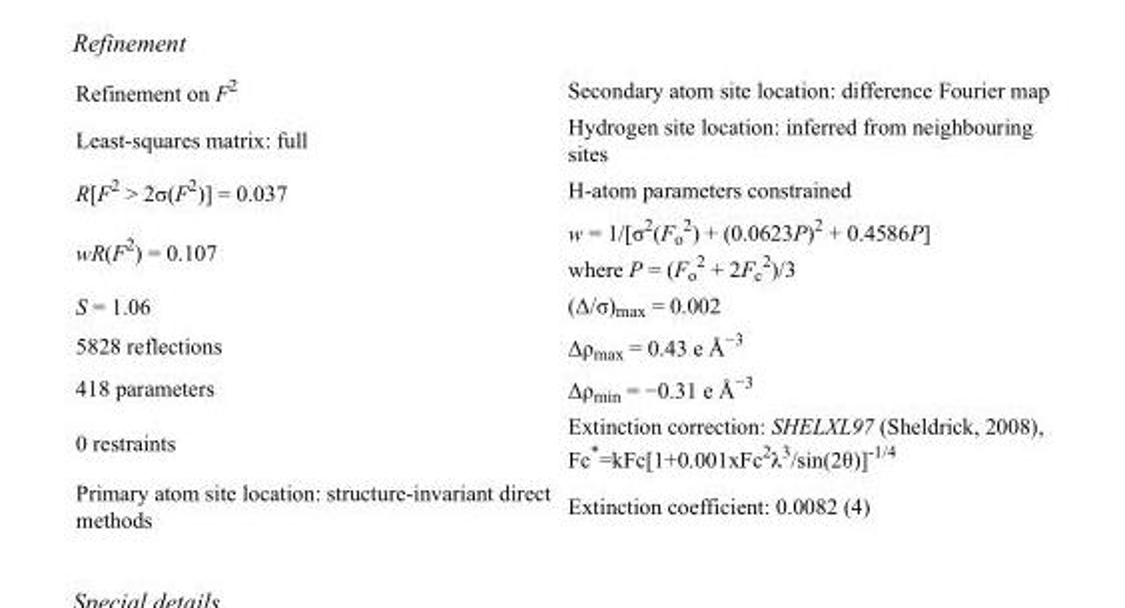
<table><tbody><tr><td>Refinement on F<sup>2</sup></td><td>Secondary atom site location: difference Fourier map</td></tr><tr><td>Least-squares matrix: full</td><td>Hydrogen site location: inferred from neighbouring sites</td></tr><tr><td>R[F<sup>2</sup> &gt; 2σ(F<sup>2</sup>)] = 0.037</td><td>H-atom parameters constrained</td></tr><tr><td>wR(F<sup>2</sup>) = 0.107</td><td>w = 1/[σ<sup>2</sup>(F<sub>o</sub> <sup>2</sup>) + (0.0623P)<sup>2</sup> + 0.4586P] where P = (F<sub>o</sub> <sup>2</sup> + 2F<sub>c</sub> <sup>2</sup>)/3</td></tr><tr><td>S = 1.06</td><td>(Δ/σ)<sub>max</sub> = 0.002</td></tr><tr><td>5828 reflections</td><td>Δρ<sub>max</sub> = 0.43 e Å<sup>−3</sup></td></tr><tr><td>418 parameters</td><td>Δρ<sub>min</sub> = −0.31 e Å<sup>−3</sup></td></tr><tr><td>0 restraints</td><td>Extinction correction: SHELXL97 (Sheldrick, 2008), Fc*=kFc[1+0.001xFc<sup>2</sup>λ<sup>3</sup>/sin(2θ)]<sup>-1/4</sup></td></tr><tr><td>Primary atom site location: structure-invariant direct methods</td><td>Extinction coefficient: 0.0082 (4)</td></tr></tbody></table>